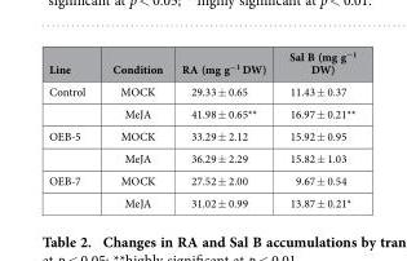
<table><thead><tr><td>Line</td><td>Condition</td><td>RA (mg g<sup>−1</sup> DW)</td><td>Sal B (mg g<sup>−1</sup> DW)</td></tr></thead><tbody><tr><td rowspan="2">Control</td><td>MOCK</td><td>29.33 ± 0.65</td><td>11.43 ± 0.37</td></tr><tr><td>MeJA</td><td>41.98 ± 0.65**</td><td>16.97 ± 0.21**</td></tr><tr><td rowspan="2">OEB-5</td><td>MOCK</td><td>33.29 ± 2.12</td><td>15.92 ± 0.95</td></tr><tr><td>MeJA</td><td>36.29 ± 2.29</td><td>15.82 ± 1.03</td></tr><tr><td rowspan="2">OEB-7</td><td>MOCK</td><td>27.52 ± 2.00</td><td>9.67 ± 0.54</td></tr><tr><td>MeJA</td><td>31.02 ± 0.99</td><td>13.87 ± 0.21*</td></tr></tbody></table>